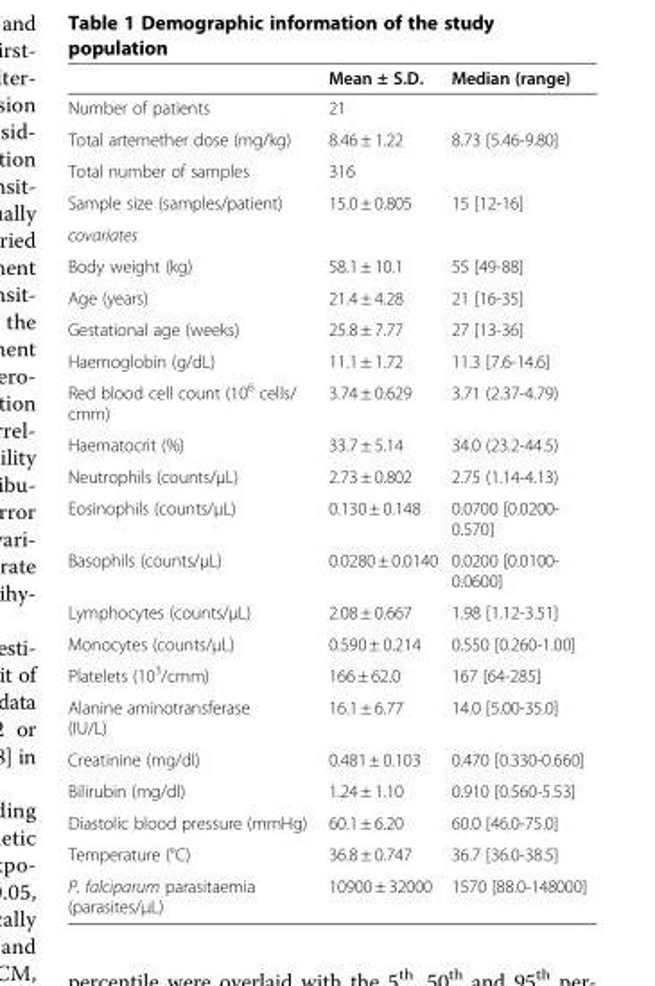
<table><thead><tr><td></td><td>Mean ± S.D.</td><td>Median (range)</td></tr></thead><tbody><tr><td>Number of patients</td><td>21</td><td></td></tr><tr><td>Total artemether dose (mg/kg)</td><td>8.46 ± 1.22</td><td>8.73 [5.46-9.80]</td></tr><tr><td>Total number of samples</td><td>316</td><td></td></tr><tr><td>Sample size (samples/patient)</td><td>15.0 ± 0.805</td><td>15 [12-16]</td></tr><tr><td colspan="3">covariates</td></tr><tr><td>Body weight (kg)</td><td>58.1 ± 10.1</td><td>55 [49-88]</td></tr><tr><td>Age (years)</td><td>21.4 ± 4.28</td><td>21 [16-35]</td></tr><tr><td>Gestational age (weeks)</td><td>25.8 ± 7.77</td><td>27 [13-36]</td></tr><tr><td>Haemoglobin (g/dL)</td><td>11.1 ± 1.72</td><td>11.3 [7.6-14.6]</td></tr><tr><td>Red blood cell count (10<sup>6</sup> cells/ cmm)</td><td>3.74 ± 0.629</td><td>3.71 (2.37-4.79)</td></tr><tr><td>Haematocrit (%)</td><td>33.7 ± 5.14</td><td>34.0 (23.2-44.5)</td></tr><tr><td>Neutrophils (counts/μL)</td><td>2.73 ± 0.802</td><td>2.75 (1.14-4.13)</td></tr><tr><td>Eosinophils (counts/μL)</td><td>0.130 ± 0.148</td><td>0.0700 [0.0200- 0.570]</td></tr><tr><td>Basophils (counts/μL)</td><td>0.0280 ± 0.0140</td><td>0.0200 [0.0100- 0.0600]</td></tr><tr><td>Lymphocytes (counts/μL)</td><td>2.08 ± 0.667</td><td>1.98 [1.12-3.51]</td></tr><tr><td>Monocytes (counts/μL)</td><td>0.590 ± 0.214</td><td>0.550 [0.260-1.00]</td></tr><tr><td>Platelets (10<sup>3</sup>/cmm)</td><td>166 ± 62.0</td><td>167 [64-285]</td></tr><tr><td>Alanine aminotransferase (IU/L)</td><td>16.1 ± 6.77</td><td>14.0 [5.00-35.0]</td></tr><tr><td>Creatinine (mg/dl)</td><td>0.481 ± 0.103</td><td>0.470 [0.330-0.660]</td></tr><tr><td>Bilirubin (mg/dl)</td><td>1.24 ± 1.10</td><td>0.910 [0.560-5.53]</td></tr><tr><td>Diastolic blood pressure (mmHg)</td><td>60.1 ± 6.20</td><td>60.0 [46.0-75.0]</td></tr><tr><td>Temperature (°C)</td><td>36.8 ± 0.747</td><td>36.7 [36.0-38.5]</td></tr><tr><td>P. falciparum parasitaemia (parasites/μL)</td><td>10900 ± 32000</td><td>1570 [88.0-148000]</td></tr></tbody></table>